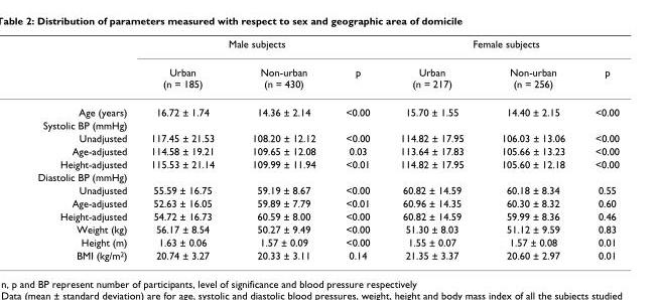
<table><thead><tr><td rowspan="2"></td><td colspan="3">Male subjects</td><td colspan="3">Female subjects</td></tr><tr><td>Urban (n = 185)</td><td>Non-urban (n = 430)</td><td>p</td><td>Urban (n = 217)</td><td>Non-urban (n = 256)</td><td>p</td></tr></thead><tbody><tr><td>Age (years)</td><td>16.72 ± 1.74</td><td>14.36 ± 2.14</td><td>&lt;0.00</td><td>15.70 ± 1.55</td><td>14.40 ± 2.15</td><td>&lt;0.00</td></tr><tr><td colspan="7">Systolic BP (mmHg)</td></tr><tr><td>Unadjusted</td><td>117.45 ± 21.53</td><td>108.20 ± 12.12</td><td>&lt;0.00</td><td>114.82 ± 17.95</td><td>106.03 ± 13.06</td><td>&lt;0.00</td></tr><tr><td>Age-adjusted</td><td>114.58 ± 19.21</td><td>109.65 ± 12.08</td><td>0.03</td><td>113.64 ± 17.83</td><td>105.66 ± 13.23</td><td>&lt;0.00</td></tr><tr><td>Height-adjusted</td><td>115.53 ± 21.14</td><td>109.99 ± 11.94</td><td>&lt;0.01</td><td>114.82 ± 17.95</td><td>105.60 ± 12.18</td><td>&lt;0.00</td></tr><tr><td colspan="7">Diastolic BP (mmHg)</td></tr><tr><td>Unadjusted</td><td>55.59 ± 16.75</td><td>59.19 ± 8.67</td><td>&lt;0.00</td><td>60.82 ± 14.59</td><td>60.18 ± 8.34</td><td>0.55</td></tr><tr><td>Age-adjusted</td><td>52.63 ± 16.05</td><td>59.89 ± 7.79</td><td>&lt;0.01</td><td>60.96 ± 14.35</td><td>60.30 ± 8.32</td><td>0.60</td></tr><tr><td>Height-adjusted</td><td>54.72 ± 16.73</td><td>60.59 ± 8.00</td><td>&lt;0.00</td><td>60.82 ± 14.59</td><td>59.99 ± 8.36</td><td>0.46</td></tr><tr><td>Weight (kg)</td><td>56.17 ± 8.54</td><td>50.27 ± 9.49</td><td>&lt;0.00</td><td>51.30 ± 8.03</td><td>51.12 ± 9.59</td><td>0.83</td></tr><tr><td>Height (m)</td><td>1.63 ± 0.06</td><td>1.57 ± 0.09</td><td>&lt;0.00</td><td>1.55 ± 0.07</td><td>1.57 ± 0.08</td><td>0.01</td></tr><tr><td>BMI (kg/m<sup>2</sup>)</td><td>20.74 ± 3.27</td><td>20.33 ± 3.11</td><td>0.14</td><td>21.35 ± 3.37</td><td>20.60 ± 2.97</td><td>0.01</td></tr></tbody></table>